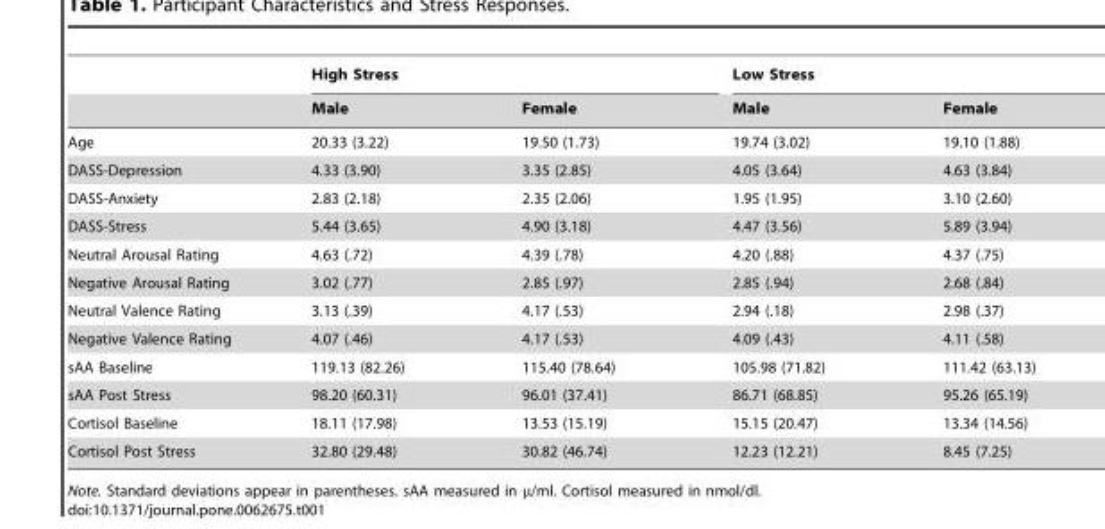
<table><thead><tr><td rowspan="2"></td><td colspan="2">High Stress</td><td colspan="2">Low Stress</td></tr><tr><td>Male</td><td>Female</td><td>Male</td><td>Female</td></tr></thead><tbody><tr><td>Age</td><td>20.33 (3.22)</td><td>19.50 (1.73)</td><td>19.74 (3.02)</td><td>19.10 (1.88)</td></tr><tr><td>DASS-Depression</td><td>4.33 (3.90)</td><td>3.35 (2.85)</td><td>4.05 (3.64)</td><td>4.63 (3.84)</td></tr><tr><td>DASS-Anxiety</td><td>2.83 (2.18)</td><td>2.35 (2.06)</td><td>1.95 (1.95)</td><td>3.10 (2.60)</td></tr><tr><td>DASS-Stress</td><td>5.44 (3.65)</td><td>4.90 (3.18)</td><td>4.47 (3.56)</td><td>5.89 (3.94)</td></tr><tr><td>Neutral Arousal Rating</td><td>4.63 (.72)</td><td>4.39 (.78)</td><td>4.20 (.88)</td><td>4.37 (.75)</td></tr><tr><td>Negative Arousal Rating</td><td>3.02 (.77)</td><td>2.85 (.97)</td><td>2.85 (.94)</td><td>2.68 (.84)</td></tr><tr><td>Neutral Valence Rating</td><td>3.13 (.39)</td><td>4.17 (.53)</td><td>2.94 (.18)</td><td>2.98 (.37)</td></tr><tr><td>Negative Valence Rating</td><td>4.07 (.46)</td><td>4.17 (.53)</td><td>4.09 (.43)</td><td>4.11 (.58)</td></tr><tr><td>sAA Baseline</td><td>119.13 (82.26)</td><td>115.40 (78.64)</td><td>105.98 (71.82)</td><td>111.42 (63.13)</td></tr><tr><td>sAA Post Stress</td><td>98.20 (60.31)</td><td>96.01 (37.41)</td><td>86.71 (68.85)</td><td>95.26 (65.19)</td></tr><tr><td>Cortisol Baseline</td><td>18.11 (17.98)</td><td>13.53 (15.19)</td><td>15.15 (20.47)</td><td>13.34 (14.56)</td></tr><tr><td>Cortisol Post Stress</td><td>32.80 (29.48)</td><td>30.82 (46.74)</td><td>12.23 (12.21)</td><td>8.45 (7.25)</td></tr></tbody></table>